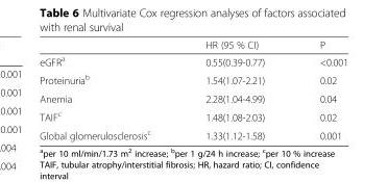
<table><thead><tr><td></td><td>HR (95 % CI)</td><td>P</td></tr></thead><tbody><tr><td>eGFR<sup>a</sup></td><td>0.55(0.39-0.77)</td><td>&lt;0.001</td></tr><tr><td>Proteinuria<sup>b</sup></td><td>1.54(1.07-2.21)</td><td>0.02</td></tr><tr><td>Anemia</td><td>2.28(1.04-4.99)</td><td>0.04</td></tr><tr><td>TAIF<sup>c</sup></td><td>1.48(1.08-2.03)</td><td>0.02</td></tr><tr><td>Global glomerulosclerosis<sup>c</sup></td><td>1.33(1.12-1.58)</td><td>0.001</td></tr></tbody></table>